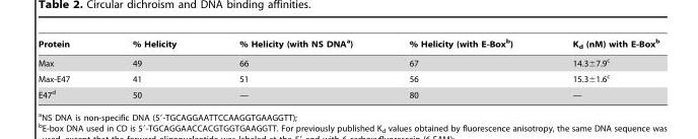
<table><thead><tr><td>Protein</td><td>% Helicity</td><td>% Helicity (with NS DNA<sup>a</sup>)</td><td>% Helicity (with E-Box<sup>b</sup>)</td><td>K<sub>d</sub> (nM) with E-Box<sup>b</sup></td></tr></thead><tbody><tr><td>Max</td><td>49</td><td>66</td><td>67</td><td>14.3±7.9<sup>c</sup></td></tr><tr><td>Max-E47</td><td>41</td><td>51</td><td>56</td><td>15.3±1.6<sup>c</sup></td></tr><tr><td>E47<sup>d</sup></td><td>50</td><td>—</td><td>80</td><td>—</td></tr></tbody></table>